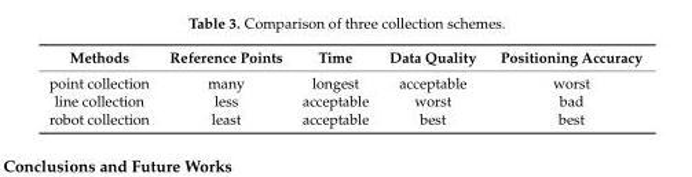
<table><thead><tr><td>Methods</td><td>Reference Points</td><td>Time</td><td>Data Quality</td><td>Positioning Accuracy</td></tr></thead><tbody><tr><td>point collection</td><td>many</td><td>longest</td><td>acceptable</td><td>worst</td></tr><tr><td>line collection</td><td>less</td><td>acceptable</td><td>worst</td><td>bad</td></tr><tr><td>robot collection</td><td>least</td><td>acceptable</td><td>best</td><td>best</td></tr></tbody></table>